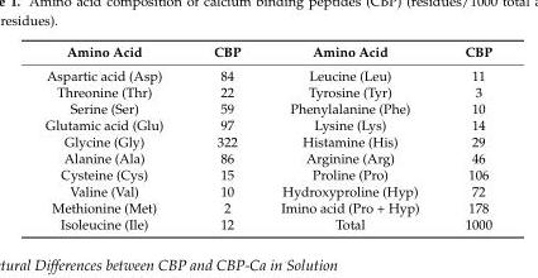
<table><thead><tr><td>Amino Acid</td><td>CBP</td><td>Amino Acid</td><td>CBP</td></tr></thead><tbody><tr><td>Aspartic acid (Asp)</td><td>84</td><td>Leucine (Leu)</td><td>11</td></tr><tr><td>Threonine (Thr)</td><td>22</td><td>Tyrosine (Tyr)</td><td>3</td></tr><tr><td>Serine (Ser)</td><td>59</td><td>Phenylalanine (Phe)</td><td>10</td></tr><tr><td>Glutamic acid (Glu)</td><td>97</td><td>Lysine (Lys)</td><td>14</td></tr><tr><td>Glycine (Gly)</td><td>322</td><td>Histamine (His)</td><td>29</td></tr><tr><td>Alanine (Ala)</td><td>86</td><td>Arginine (Arg)</td><td>46</td></tr><tr><td>Cysteine (Cys)</td><td>15</td><td>Proline (Pro)</td><td>106</td></tr><tr><td>Valine (Val)</td><td>10</td><td>Hydroxyproline (Hyp)</td><td>72</td></tr><tr><td>Methionine (Met)</td><td>2</td><td>Imino acid (Pro + Hyp)</td><td>178</td></tr><tr><td>Isoleucine (Ile)</td><td>12</td><td>Total</td><td>1000</td></tr></tbody></table>